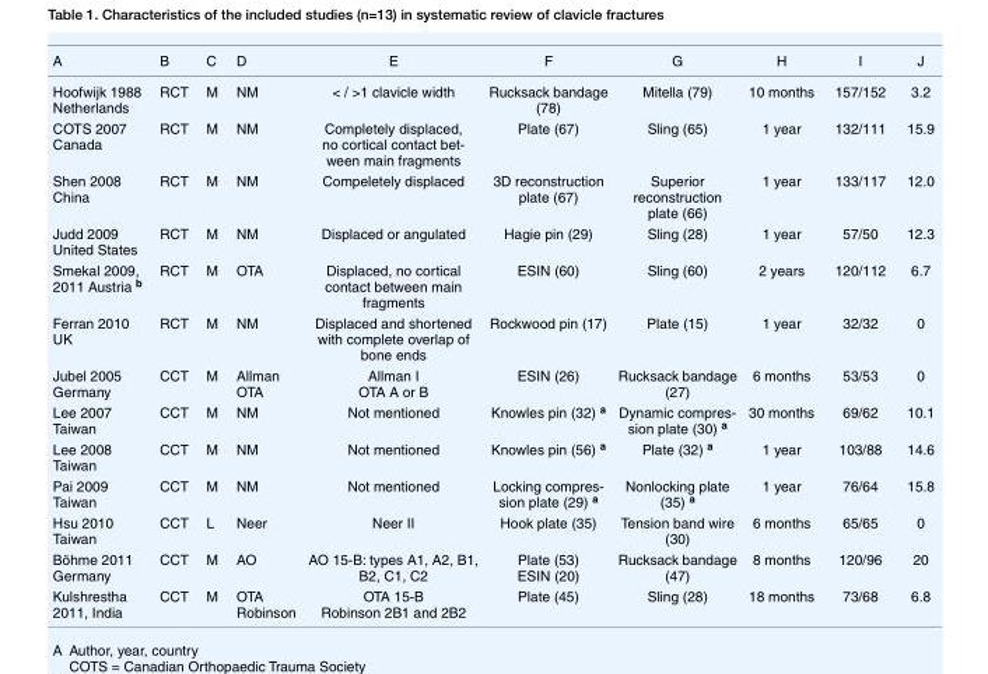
<table><thead><tr><td>A</td><td>B</td><td>C</td><td>D</td><td>E</td><td>F</td><td>G</td><td>H</td><td>I</td><td>J</td></tr></thead><tbody><tr><td>Hoofwijk 1988 Netherlands</td><td>RCT</td><td>M</td><td>NM</td><td>&lt; / &gt;1 clavicle width</td><td>Rucksack bandage (78)</td><td>Mitella (79)</td><td>10 months</td><td>157/152</td><td>3.2</td></tr><tr><td>COTS 2007 Canada</td><td>RCT</td><td>M</td><td>NM</td><td>Completely displaced, no cortical contact bet- ween main fragments</td><td>Plate (67)</td><td>Sling (65)</td><td>1 year</td><td>132/111</td><td>15.9</td></tr><tr><td>Shen 2008 China</td><td>RCT</td><td>M</td><td>NM</td><td>Compeletely displaced</td><td>3D reconstruction plate (67)</td><td>Superior reconstruction plate (66)</td><td>1 year</td><td>133/117</td><td>12.0</td></tr><tr><td>Judd 2009 United States</td><td>RCT</td><td>M</td><td>NM</td><td>Displaced or angulated</td><td>Hagie pin (29)</td><td>Sling (28)</td><td>1 year</td><td>57/50</td><td>12.3</td></tr><tr><td>Smekal 2009, 2011 Austria <sup>b</sup></td><td>RCT</td><td>M</td><td>OTA</td><td>Displaced, no cortical contact between main fragments</td><td>ESIN (60)</td><td>Sling (60)</td><td>2 years</td><td>120/112</td><td>6.7</td></tr><tr><td>Ferran 2010 UK</td><td>RCT</td><td>M</td><td>NM</td><td>Displaced and shortened with complete overlap of bone ends</td><td>Rockwood pin (17)</td><td>Plate (15)</td><td>1 year</td><td>32/32</td><td>0</td></tr><tr><td>Jubel 2005 Germany</td><td>CCT</td><td>M</td><td>Allman OTA</td><td>Allman I OTA A or B</td><td>ESIN (26)</td><td>Rucksack bandage (27)</td><td>6 months</td><td>53/53</td><td>0</td></tr><tr><td>Lee 2007 Taiwan</td><td>CCT</td><td>M</td><td>NM</td><td>Not mentioned</td><td>Knowles pin (32) <sup>a</sup></td><td>Dynamic compres- sion plate (30) a</td><td>30 months</td><td>69/62</td><td>10.1</td></tr><tr><td>Lee 2008 Taiwan</td><td>CCT</td><td>M</td><td>NM</td><td>Not mentioned</td><td>Knowles pin (56) <sup>a</sup></td><td>Plate (32) <sup>a</sup></td><td>1 year</td><td>103/88</td><td>14.6</td></tr><tr><td>Pai 2009 Taiwan</td><td>CCT</td><td>M</td><td>NM</td><td>Not mentioned</td><td>Locking compres- sion plate (29) a</td><td>Nonlocking plate (35) <sup>a</sup></td><td>1 year</td><td>76/64</td><td>15.8</td></tr><tr><td>Hsu 2010 Taiwan</td><td>CCT</td><td>L</td><td>Neer</td><td>Neer II</td><td>Hook plate (35)</td><td>Tension band wire (30)</td><td>6 months</td><td>65/65</td><td>0</td></tr><tr><td>Böhme 2011 Germany</td><td>CCT</td><td>M</td><td>AO</td><td>AO 15-B: types A1, A2, B1, B2, C1, C2</td><td>Plate (53) ESIN (20)</td><td>Rucksack bandage (47)</td><td>8 months</td><td>120/96</td><td>20</td></tr><tr><td>Kulshrestha 2011, India</td><td>CCT</td><td>M</td><td>OTA Robinson</td><td>OTA 15-B Robinson 2B1 and 2B2</td><td>Plate (45)</td><td>Sling (28)</td><td>18 months</td><td>73/68</td><td>6.8</td></tr></tbody></table>